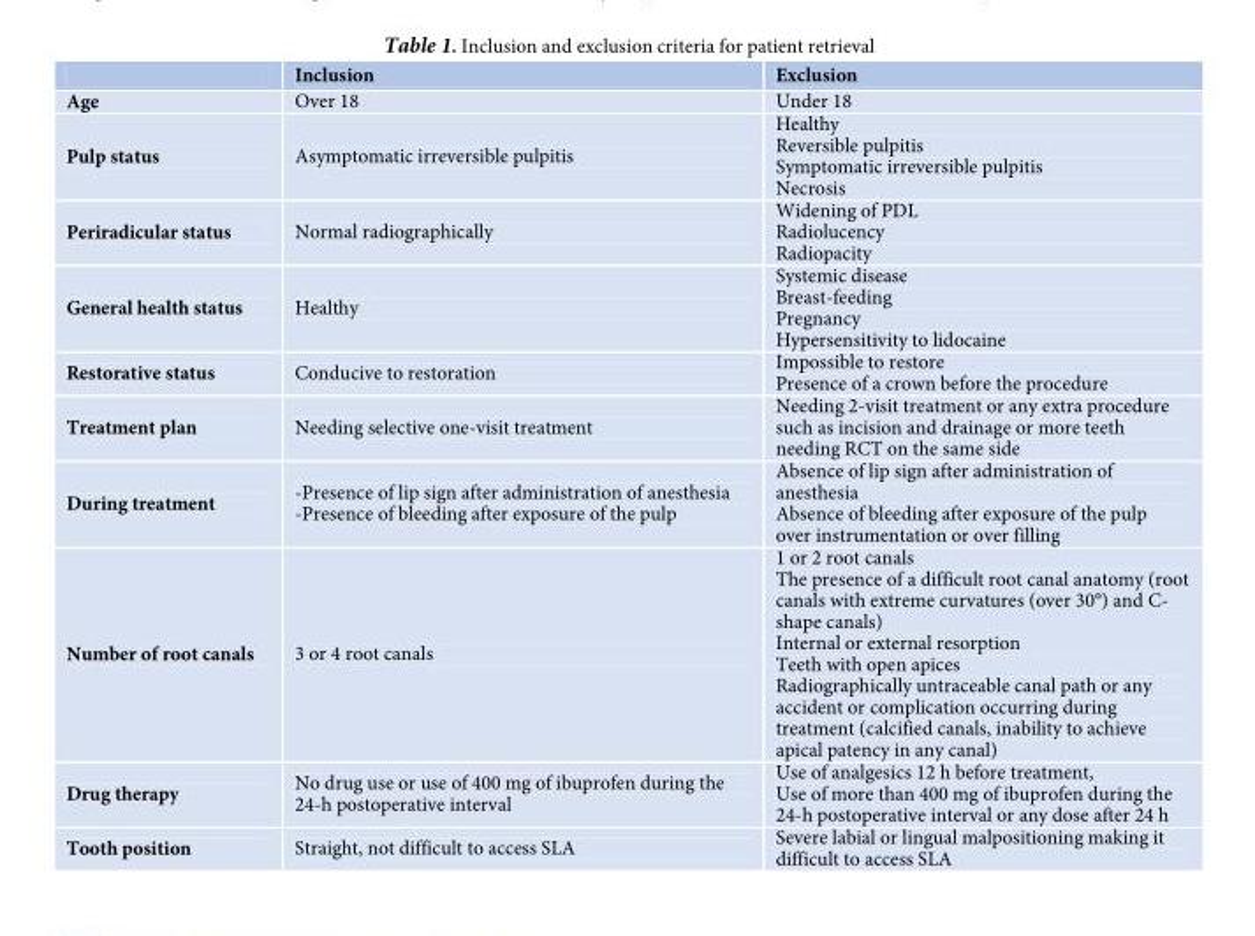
<table><thead><tr><td></td><td>Inclusion</td><td>Exclusion</td></tr></thead><tbody><tr><td>Age</td><td>Over 18</td><td>Under 18</td></tr><tr><td>Pulp status</td><td>Asymptomatic irreversible pulpitis</td><td>Healthy Reversible pulpitis Symptomatic irreversible pulpitis Necrosis</td></tr><tr><td>Periradicular status</td><td>Normal radiographically</td><td>Widening of PDL Radiolucency Radiopacity</td></tr><tr><td>General health status</td><td>Healthy</td><td>Systemic disease Breast-feeding Pregnancy Hypersensitivity to lidocaine</td></tr><tr><td>Restorative status</td><td>Conducive to restoration</td><td>Impossible to restore Presence of a crown before the procedure</td></tr><tr><td>Treatment plan</td><td>Needing selective one-visit treatment</td><td>Needing 2-visit treatment or any extra procedure such as incision and drainage or more teeth needing RCT on the same side</td></tr><tr><td>During treatment</td><td>-Presence of lip sign after administration of anesthesia -Presence of bleeding after exposure of the pulp</td><td>Absence of lip sign after administration of anesthesia Absence of bleeding after exposure of the pulp over instrumentation or over filling</td></tr><tr><td>Number of root canals</td><td>3 or 4 root canals</td><td>1 or 2 root canals The presence of a difficult root canal anatomy (root canals with extreme curvatures (over 30°) and C- shape canals) Internal or external resorption Teeth with open apices Radiographically untraceable canal path or any accident or complication occurring during treatment (calcified canals, inability to achieve apical patency in any canal)</td></tr><tr><td>Drug therapy</td><td>No drug use or use of 400 mg of ibuprofen during the 24-h postoperative interval</td><td>Use of analgesics 12 h before treatment, Use of more than 400 mg of ibuprofen during the 24-h postoperative interval or any dose after 24 h</td></tr><tr><td>Tooth position</td><td>Straight, not difficult to access SLA</td><td>Severe labial or lingual malpositioning making it difficult to access SLA</td></tr></tbody></table>